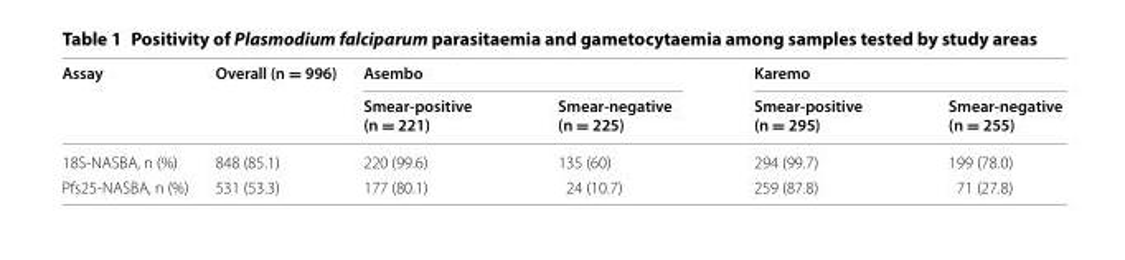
<table><thead><tr><td rowspan="2">Assay</td><td rowspan="2">Overall (n = 996)</td><td colspan="2">Asembo</td><td colspan="2">Karemo</td></tr><tr><td>Smear‑positive (n = 221)</td><td>Smear‑negative (n = 225)</td><td>Smear‑positive (n = 295)</td><td>Smear‑negative (n = 255)</td></tr></thead><tbody><tr><td>18S-NASBA, n (%)</td><td>848 (85.1)</td><td>220 (99.6)</td><td>135 (60)</td><td>294 (99.7)</td><td>199 (78.0)</td></tr><tr><td>Pfs25-NASBA, n (%)</td><td>531 (53.3)</td><td>177 (80.1)</td><td>24 (10.7)</td><td>259 (87.8)</td><td>71 (27.8)</td></tr></tbody></table>